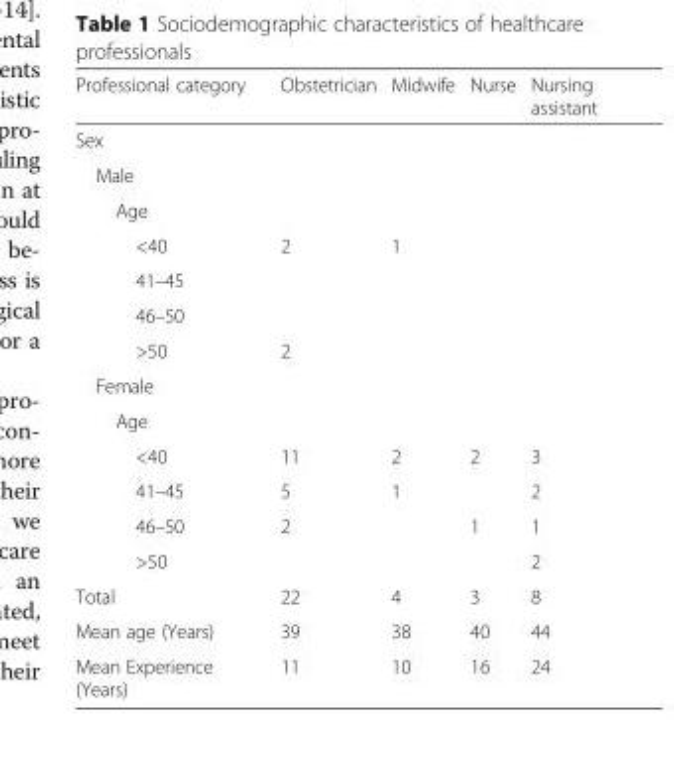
<table><thead><tr><td>Professional category</td><td>Obstetrician</td><td>Midwife</td><td>Nurse</td><td>Nursing assistant</td></tr></thead><tbody><tr><td colspan="5">Sex</td></tr><tr><td colspan="5">Male</td></tr><tr><td colspan="5">Age</td></tr><tr><td>&lt;40</td><td>2</td><td>1</td><td></td><td></td></tr><tr><td colspan="5">41–45</td></tr><tr><td colspan="5">46–50</td></tr><tr><td>&gt;50</td><td>2</td><td></td><td></td><td></td></tr><tr><td colspan="5">Female</td></tr><tr><td colspan="5">Age</td></tr><tr><td>&lt;40</td><td>11</td><td>2</td><td>2</td><td>3</td></tr><tr><td>41–45</td><td>5</td><td>1</td><td></td><td>2</td></tr><tr><td>46–50</td><td>2</td><td></td><td>1</td><td>1</td></tr><tr><td>&gt;50</td><td></td><td></td><td></td><td>2</td></tr><tr><td>Total</td><td>22</td><td>4</td><td>3</td><td>8</td></tr><tr><td>Mean age (Years)</td><td>39</td><td>38</td><td>40</td><td>44</td></tr><tr><td>Mean Experience (Years)</td><td>11</td><td>10</td><td>16</td><td>24</td></tr></tbody></table>